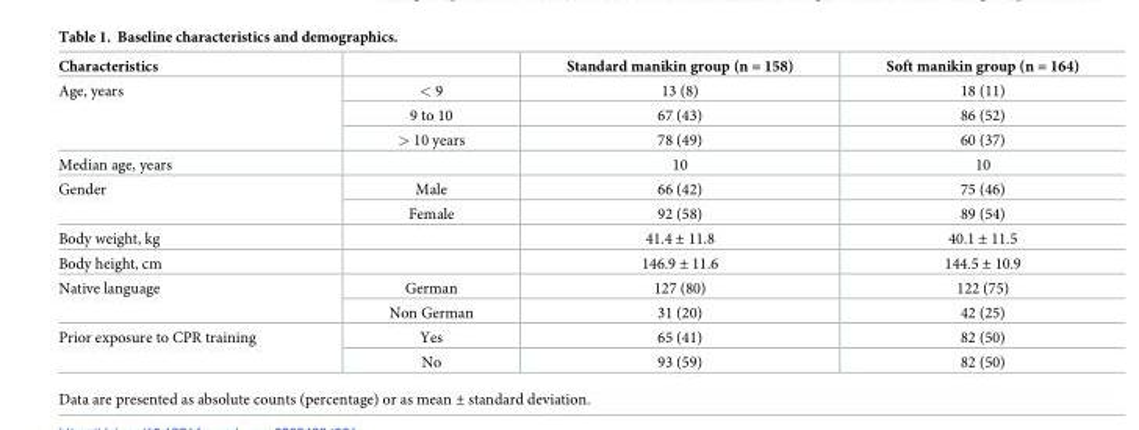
<table><thead><tr><td>Characteristics</td><td></td><td>Standard manikin group (n = 158)</td><td>Soft manikin group (n = 164)</td></tr></thead><tbody><tr><td rowspan="3">Age, years</td><td>&lt; 9</td><td>13 (8)</td><td>18 (11)</td></tr><tr><td>9 to 10</td><td>67 (43)</td><td>86 (52)</td></tr><tr><td>&gt; 10 years</td><td>78 (49)</td><td>60 (37)</td></tr><tr><td>Median age, years</td><td></td><td>10</td><td>10</td></tr><tr><td rowspan="2">Gender</td><td>Male</td><td>66 (42)</td><td>75 (46)</td></tr><tr><td>Female</td><td>92 (58)</td><td>89 (54)</td></tr><tr><td>Body weight, kg</td><td></td><td>41.4 ± 11.8</td><td>40.1 ± 11.5</td></tr><tr><td>Body height, cm</td><td></td><td>146.9 ± 11.6</td><td>144.5 ± 10.9</td></tr><tr><td rowspan="2">Native language</td><td>German</td><td>127 (80)</td><td>122 (75)</td></tr><tr><td>Non German</td><td>31 (20)</td><td>42 (25)</td></tr><tr><td rowspan="2">Prior exposure to CPR training</td><td>Yes</td><td>65 (41)</td><td>82 (50)</td></tr><tr><td>No</td><td>93 (59)</td><td>82 (50)</td></tr></tbody></table>